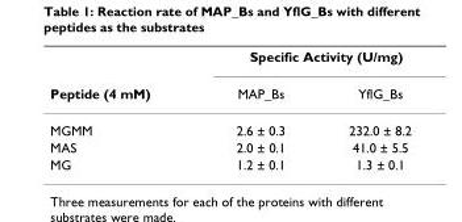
<table><thead><tr><td rowspan="2">Peptide (4 mM)</td><td colspan="2">Specific Activity (U/mg)</td></tr><tr><td>MAP_Bs</td><td>YflG_Bs</td></tr></thead><tbody><tr><td>MGMM</td><td>2.6 ± 0.3</td><td>232.0 ± 8.2</td></tr><tr><td>MAS</td><td>2.0 ± 0.1</td><td>41.0 ± 5.5</td></tr><tr><td>MG</td><td>1.2 ± 0.1</td><td>1.3 ± 0.1</td></tr></tbody></table>